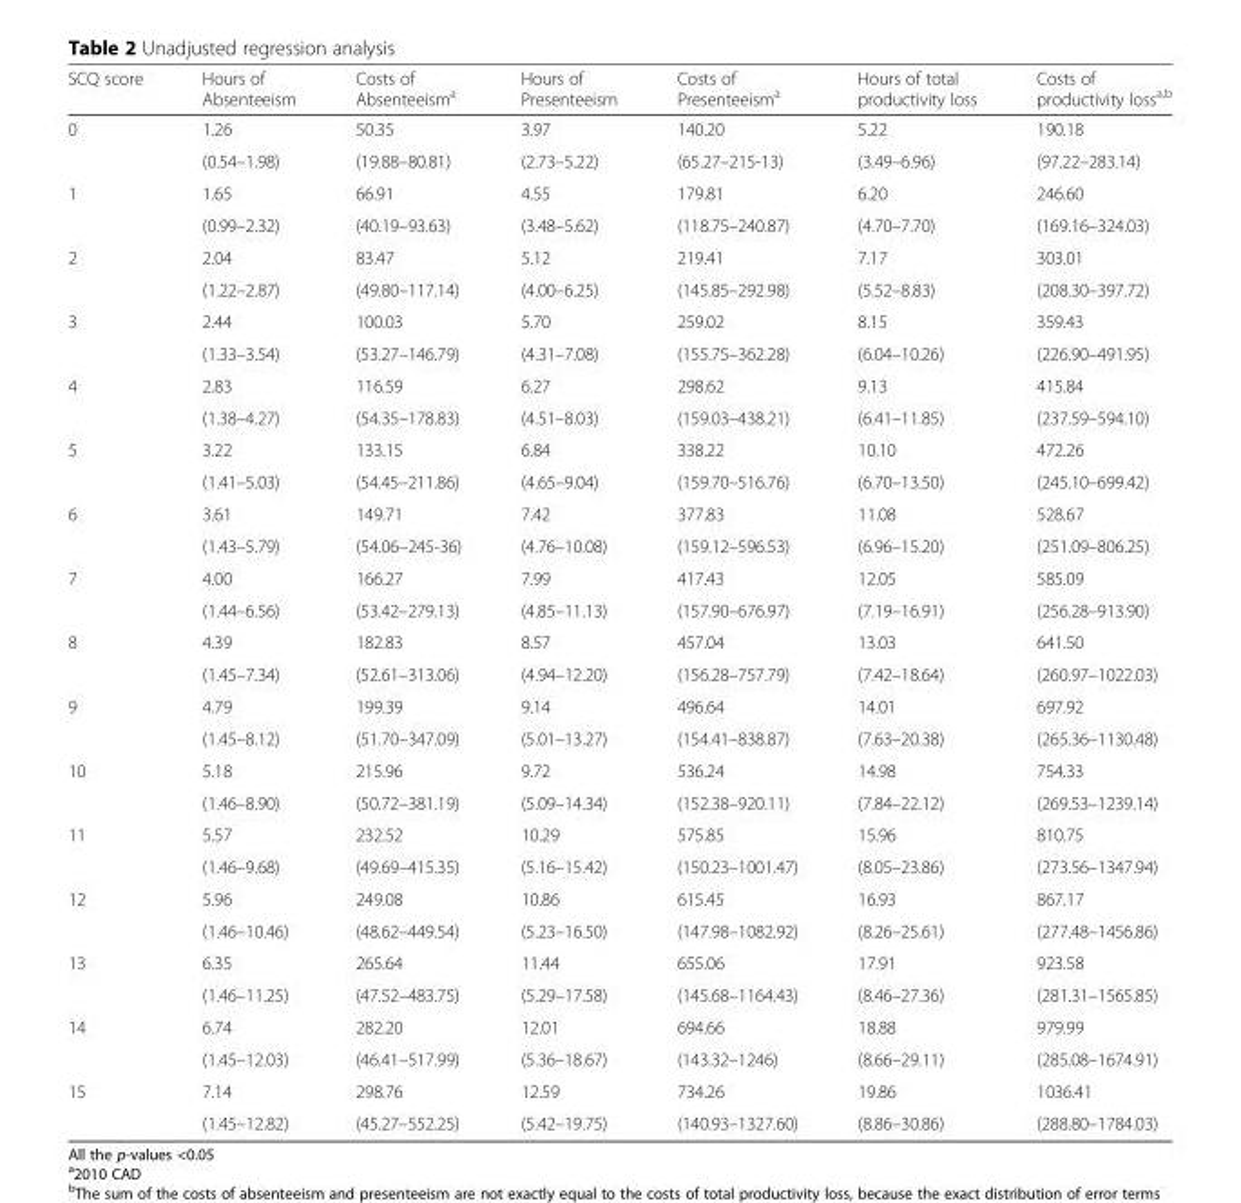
<table><thead><tr><td>SCQ score</td><td>Hours of Absenteeism</td><td>Costs of Absenteeism<sup>a</sup></td><td>Hours of Presenteeism</td><td>Costs of Presenteeism<sup>a</sup></td><td>Hours of total productivity loss</td><td>Costs of productivity loss<sup>a,b</sup></td></tr></thead><tbody><tr><td rowspan="2">0</td><td>1.26</td><td>50.35</td><td>3.97</td><td>140.20</td><td>5.22</td><td>190.18</td></tr><tr><td>(0.54–1.98)</td><td>(19.88–80.81)</td><td>(2.73–5.22)</td><td>(65.27–215-13)</td><td>(3.49–6.96)</td><td>(97.22–283.14)</td></tr><tr><td rowspan="2">1</td><td>1.65</td><td>66.91</td><td>4.55</td><td>179.81</td><td>6.20</td><td>246.60</td></tr><tr><td>(0.99–2.32)</td><td>(40.19–93.63)</td><td>(3.48–5.62)</td><td>(118.75–240.87)</td><td>(4.70–7.70)</td><td>(169.16–324.03)</td></tr><tr><td rowspan="2">2</td><td>2.04</td><td>83.47</td><td>5.12</td><td>219.41</td><td>7.17</td><td>303.01</td></tr><tr><td>(1.22–2.87)</td><td>(49.80–117.14)</td><td>(4.00–6.25)</td><td>(145.85–292.98)</td><td>(5.52–8.83)</td><td>(208.30–397.72)</td></tr><tr><td rowspan="2">3</td><td>2.44</td><td>100.03</td><td>5.70</td><td>259.02</td><td>8.15</td><td>359.43</td></tr><tr><td>(1.33–3.54)</td><td>(53.27–146.79)</td><td>(4.31–7.08)</td><td>(155.75–362.28)</td><td>(6.04–10.26)</td><td>(226.90–491.95)</td></tr><tr><td rowspan="2">4</td><td>2.83</td><td>116.59</td><td>6.27</td><td>298.62</td><td>9.13</td><td>415.84</td></tr><tr><td>(1.38–4.27)</td><td>(54.35–178.83)</td><td>(4.51–8.03)</td><td>(159.03–438.21)</td><td>(6.41–11.85)</td><td>(237.59–594.10)</td></tr><tr><td rowspan="2">5</td><td>3.22</td><td>133.15</td><td>6.84</td><td>338.22</td><td>10.10</td><td>472.26</td></tr><tr><td>(1.41–5.03)</td><td>(54.45–211.86)</td><td>(4.65–9.04)</td><td>(159.70–516.76)</td><td>(6.70–13.50)</td><td>(245.10–699.42)</td></tr><tr><td rowspan="2">6</td><td>3.61</td><td>149.71</td><td>7.42</td><td>377.83</td><td>11.08</td><td>528.67</td></tr><tr><td>(1.43–5.79)</td><td>(54.06–245-36)</td><td>(4.76–10.08)</td><td>(159.12–596.53)</td><td>(6.96–15.20)</td><td>(251.09–806.25)</td></tr><tr><td rowspan="2">7</td><td>4.00</td><td>166.27</td><td>7.99</td><td>417.43</td><td>12.05</td><td>585.09</td></tr><tr><td>(1.44–6.56)</td><td>(53.42–279.13)</td><td>(4.85–11.13)</td><td>(157.90–676.97)</td><td>(7.19–16.91)</td><td>(256.28–913.90)</td></tr><tr><td rowspan="2">8</td><td>4.39</td><td>182.83</td><td>8.57</td><td>457.04</td><td>13.03</td><td>641.50</td></tr><tr><td>(1.45–7.34)</td><td>(52.61–313.06)</td><td>(4.94–12.20)</td><td>(156.28–757.79)</td><td>(7.42–18.64)</td><td>(260.97–1022.03)</td></tr><tr><td rowspan="2">9</td><td>4.79</td><td>199.39</td><td>9.14</td><td>496.64</td><td>14.01</td><td>697.92</td></tr><tr><td>(1.45–8.12)</td><td>(51.70–347.09)</td><td>(5.01–13.27)</td><td>(154.41–838.87)</td><td>(7.63–20.38)</td><td>(265.36–1130.48)</td></tr><tr><td rowspan="2">10</td><td>5.18</td><td>215.96</td><td>9.72</td><td>536.24</td><td>14.98</td><td>754.33</td></tr><tr><td>(1.46–8.90)</td><td>(50.72–381.19)</td><td>(5.09–14.34)</td><td>(152.38–920.11)</td><td>(7.84–22.12)</td><td>(269.53–1239.14)</td></tr><tr><td rowspan="2">11</td><td>5.57</td><td>232.52</td><td>10.29</td><td>575.85</td><td>15.96</td><td>810.75</td></tr><tr><td>(1.46–9.68)</td><td>(49.69–415.35)</td><td>(5.16–15.42)</td><td>(150.23–1001.47)</td><td>(8.05–23.86)</td><td>(273.56–1347.94)</td></tr><tr><td rowspan="2">12</td><td>5.96</td><td>249.08</td><td>10.86</td><td>615.45</td><td>16.93</td><td>867.17</td></tr><tr><td>(1.46–10.46)</td><td>(48.62–449.54)</td><td>(5.23–16.50)</td><td>(147.98–1082.92)</td><td>(8.26–25.61)</td><td>(277.48–1456.86)</td></tr><tr><td rowspan="2">13</td><td>6.35</td><td>265.64</td><td>11.44</td><td>655.06</td><td>17.91</td><td>923.58</td></tr><tr><td>(1.46–11.25)</td><td>(47.52–483.75)</td><td>(5.29–17.58)</td><td>(145.68–1164.43)</td><td>(8.46–27.36)</td><td>(281.31–1565.85)</td></tr><tr><td rowspan="2">14</td><td>6.74</td><td>282.20</td><td>12.01</td><td>694.66</td><td>18.88</td><td>979.99</td></tr><tr><td>(1.45–12.03)</td><td>(46.41–517.99)</td><td>(5.36–18.67)</td><td>(143.32–1246)</td><td>(8.66–29.11)</td><td>(285.08–1674.91)</td></tr><tr><td rowspan="2">15</td><td>7.14</td><td>298.76</td><td>12.59</td><td>734.26</td><td>19.86</td><td>1036.41</td></tr><tr><td>(1.45–12.82)</td><td>(45.27–552.25)</td><td>(5.42–19.75)</td><td>(140.93–1327.60)</td><td>(8.86–30.86)</td><td>(288.80–1784.03)</td></tr></tbody></table>